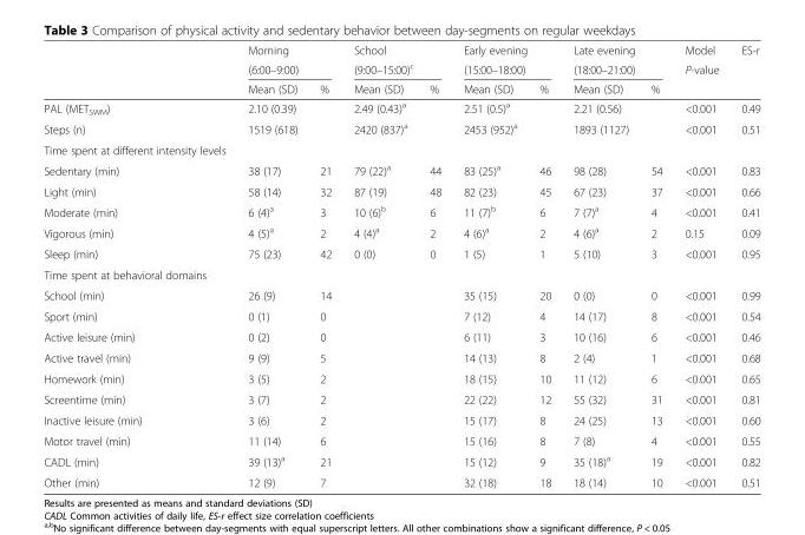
<table><thead><tr><td rowspan="3"></td><td rowspan="2" colspan="2">Morning (6:00–9:00)</td><td rowspan="2" colspan="2">School (9:00–15:00)<sup>c</sup></td><td rowspan="2" colspan="2">Early evening (15:00–18:00)</td><td rowspan="2" colspan="2">Late evening (18:00–21:00)</td><td rowspan="3">Model P-value</td><td rowspan="3">ES-r</td></tr><tr></tr><tr><td>Mean (SD)</td><td>%</td><td>Mean (SD)</td><td>%</td><td>Mean (SD)</td><td>%</td><td>Mean (SD)</td><td>%</td></tr></thead><tbody><tr><td>PAL (MET<sub>SWM</sub>)</td><td>2.10 (0.39)</td><td></td><td>2.49 (0.43)<sup>a</sup></td><td></td><td>2.51 (0.5)<sup>a</sup></td><td></td><td>2.21 (0.56)</td><td></td><td>&lt;0.001</td><td>0.49</td></tr><tr><td>Steps (n)</td><td>1519 (618)</td><td></td><td>2420 (837)<sup>a</sup></td><td></td><td>2453 (952)<sup>a</sup></td><td></td><td>1893 (1127)</td><td></td><td>&lt;0.001</td><td>0.51</td></tr><tr><td colspan="11">Time spent at different intensity levels</td></tr><tr><td>Sedentary (min)</td><td>38 (17)</td><td>21</td><td>79 (22)<sup>a</sup></td><td>44</td><td>83 (25)<sup>a</sup></td><td>46</td><td>98 (28)</td><td>54</td><td>&lt;0.001</td><td>0.83</td></tr><tr><td>Light (min)</td><td>58 (14)</td><td>32</td><td>87 (19)</td><td>48</td><td>82 (23)</td><td>45</td><td>67 (23)</td><td>37</td><td>&lt;0.001</td><td>0.66</td></tr><tr><td>Moderate (min)</td><td>6 (4)<sup>a</sup></td><td>3</td><td>10 (6)<sup>b</sup></td><td>6</td><td>11 (7)<sup>b</sup></td><td>6</td><td>7 (7)<sup>a</sup></td><td>4</td><td>&lt;0.001</td><td>0.41</td></tr><tr><td>Vigorous (min)</td><td>4 (5)<sup>a</sup></td><td>2</td><td>4 (4)<sup>a</sup></td><td>2</td><td>4 (6)<sup>a</sup></td><td>2</td><td>4 (6)<sup>a</sup></td><td>2</td><td>0.15</td><td>0.09</td></tr><tr><td>Sleep (min)</td><td>75 (23)</td><td>42</td><td>0 (0)</td><td>0</td><td>1 (5)</td><td>1</td><td>5 (10)</td><td>3</td><td>&lt;0.001</td><td>0.95</td></tr><tr><td colspan="11">Time spent at behavioral domains</td></tr><tr><td>School (min)</td><td>26 (9)</td><td>14</td><td></td><td></td><td>35 (15)</td><td>20</td><td>0 (0)</td><td>0</td><td>&lt;0.001</td><td>0.99</td></tr><tr><td>Sport (min)</td><td>0 (1)</td><td>0</td><td></td><td></td><td>7 (12)</td><td>4</td><td>14 (17)</td><td>8</td><td>&lt;0.001</td><td>0.54</td></tr><tr><td>Active leisure (min)</td><td>0 (2)</td><td>0</td><td></td><td></td><td>6 (11)</td><td>3</td><td>10 (16)</td><td>6</td><td>&lt;0.001</td><td>0.46</td></tr><tr><td>Active travel (min)</td><td>9 (9)</td><td>5</td><td></td><td></td><td>14 (13)</td><td>8</td><td>2 (4)</td><td>1</td><td>&lt;0.001</td><td>0.68</td></tr><tr><td>Homework (min)</td><td>3 (5)</td><td>2</td><td></td><td></td><td>18 (15)</td><td>10</td><td>11 (12)</td><td>6</td><td>&lt;0.001</td><td>0.65</td></tr><tr><td>Screentime (min)</td><td>3 (7)</td><td>2</td><td></td><td></td><td>22 (22)</td><td>12</td><td>55 (32)</td><td>31</td><td>&lt;0.001</td><td>0.81</td></tr><tr><td>Inactive leisure (min)</td><td>3 (6)</td><td>2</td><td></td><td></td><td>15 (17)</td><td>8</td><td>24 (25)</td><td>13</td><td>&lt;0.001</td><td>0.60</td></tr><tr><td>Motor travel (min)</td><td>11 (14)</td><td>6</td><td></td><td></td><td>15 (16)</td><td>8</td><td>7 (8)</td><td>4</td><td>&lt;0.001</td><td>0.55</td></tr><tr><td>CADL (min)</td><td>39 (13)<sup>a</sup></td><td>21</td><td></td><td></td><td>15 (12)</td><td>9</td><td>35 (18)<sup>a</sup></td><td>19</td><td>&lt;0.001</td><td>0.82</td></tr><tr><td>Other (min)</td><td>12 (9)</td><td>7</td><td></td><td></td><td>32 (18)</td><td>18</td><td>18 (14)</td><td>10</td><td>&lt;0.001</td><td>0.51</td></tr></tbody></table>